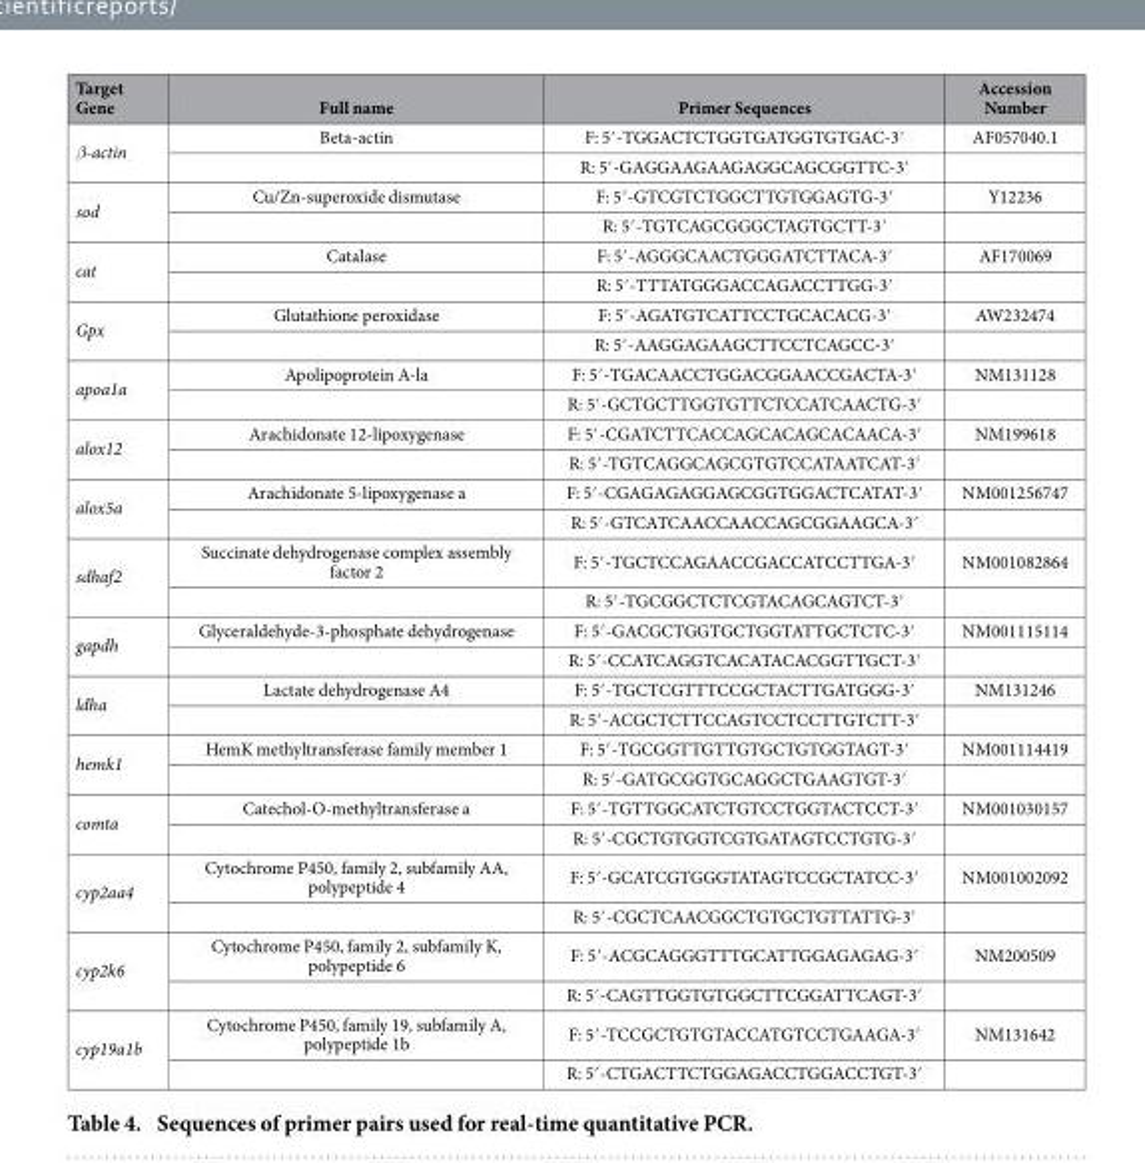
<table><thead><tr><td>Target Gene</td><td>Full name</td><td>Primer Sequences</td><td>Accession Number</td></tr></thead><tbody><tr><td rowspan="2">β-actin</td><td>Beta-actin</td><td>F: 5′ -TGGACTCTGGTGATGGTGTGAC-3′</td><td>AF057040.1</td></tr><tr><td></td><td>R: 5′ -GAGGAAGAAGAGGCAGCGGTTC-3′</td><td></td></tr><tr><td rowspan="2">sod</td><td>Cu/Zn-superoxide dismutase</td><td>F: 5′ -GTCGTCTGGCTTGTGGAGTG-3′</td><td>Y12236</td></tr><tr><td></td><td>R: 5′ -TGTCAGCGGGCTAGTGCTT-3′</td><td></td></tr><tr><td rowspan="2">cat</td><td>Catalase</td><td>F: 5′ -AGGGCAACTGGGATCTTACA-3′</td><td>AF170069</td></tr><tr><td></td><td>R: 5′ -TTTATGGGACCAGACCTTGG-3′</td><td></td></tr><tr><td rowspan="2">Gpx</td><td>Glutathione peroxidase</td><td>F: 5′ -AGATGTCATTCCTGCACACG-3′</td><td>AW232474</td></tr><tr><td></td><td>R: 5′ -AAGGAGAAGCTTCCTCAGCC-3′</td><td></td></tr><tr><td rowspan="2">apoa1a</td><td>Apolipoprotein A-la</td><td>F: 5′ -TGACAACCTGGACGGAACCGACTA-3′</td><td>NM131128</td></tr><tr><td></td><td>R: 5′ -GCTGCTTGGTGTTCTCCATCAACTG-3′</td><td></td></tr><tr><td rowspan="2">alox12</td><td>Arachidonate 12-lipoxygenase</td><td>F: 5′ -CGATCTTCACCAGCACAGCACAACA-3′</td><td>NM199618</td></tr><tr><td></td><td>R: 5′ -TGTCAGGCAGCGTGTCCATAATCAT-3′</td><td></td></tr><tr><td rowspan="2">alox5a</td><td>Arachidonate 5-lipoxygenase a</td><td>F: 5′ -CGAGAGAGGAGCGGTGGACTCATAT-3′</td><td>NM001256747</td></tr><tr><td></td><td>R: 5′ -GTCATCAACCAACCAGCGGAAGCA-3′</td><td></td></tr><tr><td rowspan="2">sdhaf2</td><td>Succinate dehydrogenase complex assembly factor 2</td><td>F: 5′ -TGCTCCAGAACCGACCATCCTTGA-3′</td><td>NM001082864</td></tr><tr><td></td><td>R: 5′ -TGCGGCTCTCGTACAGCAGTCT-3′</td><td></td></tr><tr><td rowspan="2">gapdh</td><td>Glyceraldehyde-3-phosphate dehydrogenase</td><td>F: 5′ -GACGCTGGTGCTGGTATTGCTCTC-3′</td><td>NM001115114</td></tr><tr><td></td><td>R: 5′ -CCATCAGGTCACATACACGGTTGCT-3′</td><td></td></tr><tr><td rowspan="2">ldha</td><td>Lactate dehydrogenase A4</td><td>F: 5′ -TGCTCGTTTCCGCTACTTGATGGG-3′</td><td>NM131246</td></tr><tr><td></td><td>R: 5′ -ACGCTCTTCCAGTCCTCCTTGTCTT-3′</td><td></td></tr><tr><td rowspan="2">hemk1</td><td>HemK methyltransferase family member 1</td><td>F: 5′ -TGCGGTTGTTGTGCTGTGGTAGT-3′</td><td>NM001114419</td></tr><tr><td></td><td>R: 5′ -GATGCGGTGCAGGCTGAAGTGT-3′</td><td></td></tr><tr><td rowspan="2">comta</td><td>Catechol-O-methyltransferase a</td><td>F: 5′ -TGTTGGCATCTGTCCTGGTACTCCT-3′</td><td>NM001030157</td></tr><tr><td></td><td>R: 5′ -CGCTGTGGTCGTGATAGTCCTGTG-3′</td><td></td></tr><tr><td rowspan="2">cyp2aa4</td><td>Cytochrome P450, family 2, subfamily AA, polypeptide 4</td><td>F: 5′ -GCATCGTGGGTATAGTCCGCTATCC-3′</td><td>NM001002092</td></tr><tr><td></td><td>R: 5′ -CGCTCAACGGCTGTGCTGTTATTG-3′</td><td></td></tr><tr><td rowspan="2">cyp2k6</td><td>Cytochrome P450, family 2, subfamily K, polypeptide 6</td><td>F: 5′ -ACGCAGGGTTTGCATTGGAGAGAG-3′</td><td>NM200509</td></tr><tr><td></td><td>R: 5′ -CAGTTGGTGTGGCTTCGGATTCAGT-3′</td><td></td></tr><tr><td rowspan="2">cyp19a1b</td><td>Cytochrome P450, family 19, subfamily A, polypeptide 1b</td><td>F: 5′ -TCCGCTGTGTACCATGTCCTGAAGA-3′</td><td>NM131642</td></tr><tr><td></td><td>R: 5′ -CTGACTTCTGGAGACCTGGACCTGT-3′</td><td></td></tr></tbody></table>